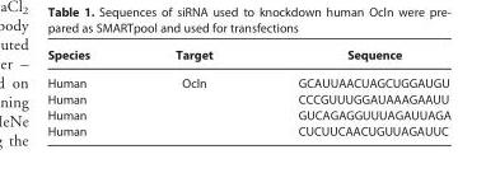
<table><thead><tr><td>Species</td><td>Target</td><td>Sequence</td></tr></thead><tbody><tr><td>Human</td><td rowspan="4">Ocln</td><td>GCAUUAACUAGCUGGAUGU</td></tr><tr><td>Human</td><td>CCCGUUUGGAUAAAGAAUU</td></tr><tr><td>Human</td><td>GUCAGAGGUUUAGAUUAGA</td></tr><tr><td>Human</td><td>CUCUUCAACUGUUAGAUUC</td></tr></tbody></table>